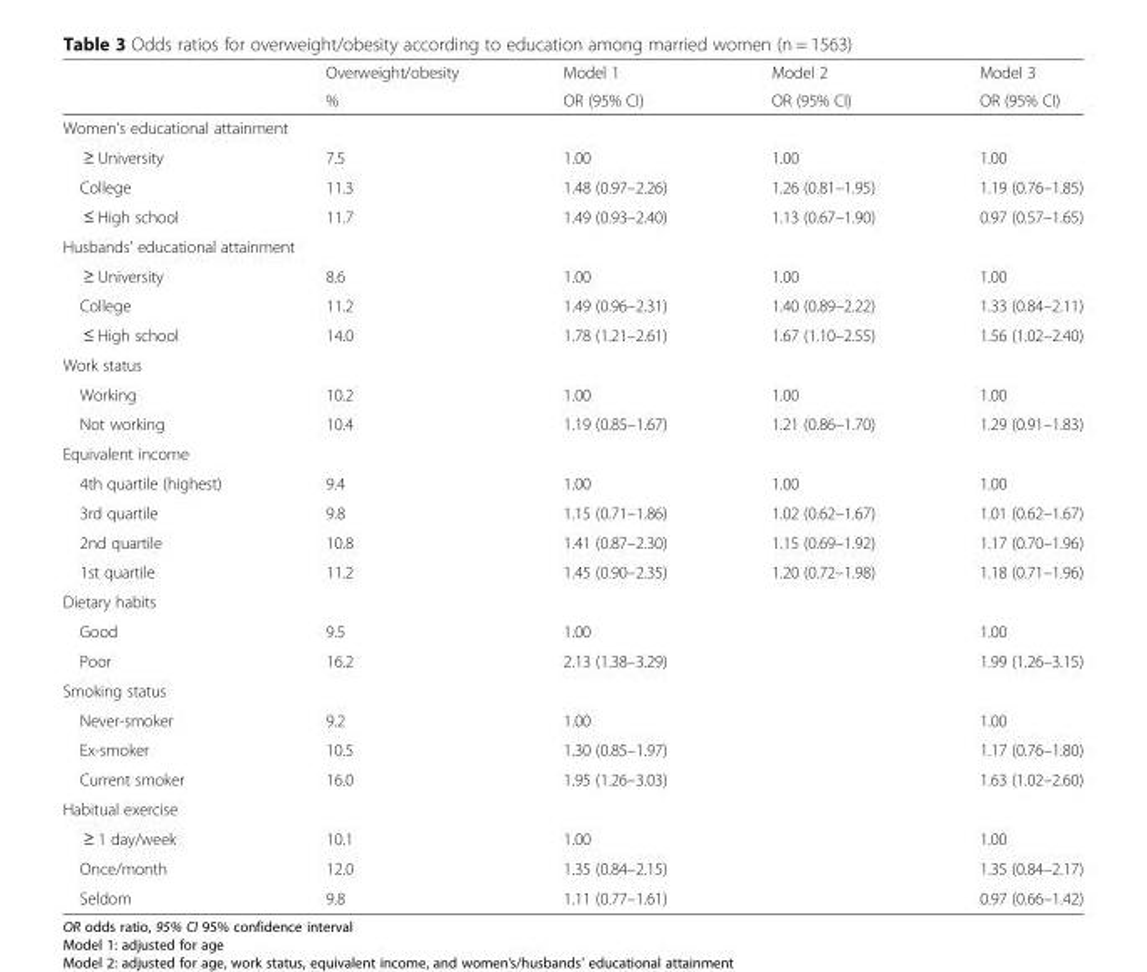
<table><thead><tr><td rowspan="2"></td><td rowspan="2">Overweight/obesity %</td><td rowspan="2">Model 1 OR (95% CI)</td><td rowspan="2">Model 2 OR (95% CI)</td><td rowspan="2">Model 3 OR (95% CI)</td></tr><tr></tr></thead><tbody><tr><td colspan="5">Women’s educational attainment</td></tr><tr><td>≥ University</td><td>7.5</td><td>1.00</td><td>1.00</td><td>1.00</td></tr><tr><td>College</td><td>11.3</td><td>1.48 (0.97–2.26)</td><td>1.26 (0.81–1.95)</td><td>1.19 (0.76–1.85)</td></tr><tr><td>≤ High school</td><td>11.7</td><td>1.49 (0.93–2.40)</td><td>1.13 (0.67–1.90)</td><td>0.97 (0.57–1.65)</td></tr><tr><td colspan="5">Husbands’ educational attainment</td></tr><tr><td>≥ University</td><td>8.6</td><td>1.00</td><td>1.00</td><td>1.00</td></tr><tr><td>College</td><td>11.2</td><td>1.49 (0.96–2.31)</td><td>1.40 (0.89–2.22)</td><td>1.33 (0.84–2.11)</td></tr><tr><td>≤ High school</td><td>14.0</td><td>1.78 (1.21–2.61)</td><td>1.67 (1.10–2.55)</td><td>1.56 (1.02–2.40)</td></tr><tr><td colspan="5">Work status</td></tr><tr><td>Working</td><td>10.2</td><td>1.00</td><td>1.00</td><td>1.00</td></tr><tr><td>Not working</td><td>10.4</td><td>1.19 (0.85–1.67)</td><td>1.21 (0.86–1.70)</td><td>1.29 (0.91–1.83)</td></tr><tr><td colspan="5">Equivalent income</td></tr><tr><td>4th quartile (highest)</td><td>9.4</td><td>1.00</td><td>1.00</td><td>1.00</td></tr><tr><td>3rd quartile</td><td>9.8</td><td>1.15 (0.71–1.86)</td><td>1.02 (0.62–1.67)</td><td>1.01 (0.62–1.67)</td></tr><tr><td>2nd quartile</td><td>10.8</td><td>1.41 (0.87–2.30)</td><td>1.15 (0.69–1.92)</td><td>1.17 (0.70–1.96)</td></tr><tr><td>1st quartile</td><td>11.2</td><td>1.45 (0.90–2.35)</td><td>1.20 (0.72–1.98)</td><td>1.18 (0.71–1.96)</td></tr><tr><td colspan="5">Dietary habits</td></tr><tr><td>Good</td><td>9.5</td><td>1.00</td><td></td><td>1.00</td></tr><tr><td>Poor</td><td>16.2</td><td>2.13 (1.38–3.29)</td><td></td><td>1.99 (1.26–3.15)</td></tr><tr><td colspan="5">Smoking status</td></tr><tr><td>Never-smoker</td><td>9.2</td><td>1.00</td><td></td><td>1.00</td></tr><tr><td>Ex-smoker</td><td>10.5</td><td>1.30 (0.85–1.97)</td><td></td><td>1.17 (0.76–1.80)</td></tr><tr><td>Current smoker</td><td>16.0</td><td>1.95 (1.26–3.03)</td><td></td><td>1.63 (1.02–2.60)</td></tr><tr><td colspan="5">Habitual exercise</td></tr><tr><td>≥ 1 day/week</td><td>10.1</td><td>1.00</td><td></td><td>1.00</td></tr><tr><td>Once/month</td><td>12.0</td><td>1.35 (0.84–2.15)</td><td></td><td>1.35 (0.84–2.17)</td></tr><tr><td>Seldom</td><td>9.8</td><td>1.11 (0.77–1.61)</td><td></td><td>0.97 (0.66–1.42)</td></tr></tbody></table>